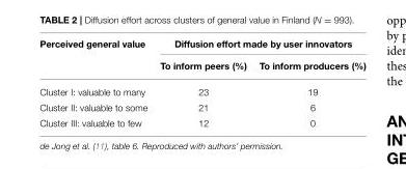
<table><thead><tr><td rowspan="2">Perceived general value</td><td colspan="2">Diffusion effort made by user innovators</td></tr><tr><td>To inform peers (%)</td><td>To inform producers (%)</td></tr></thead><tbody><tr><td>Cluster I: valuable to many</td><td>23</td><td>19</td></tr><tr><td>Cluster II: valuable to some</td><td>21</td><td>6</td></tr><tr><td>Cluster III: valuable to few</td><td>12</td><td>0</td></tr></tbody></table>